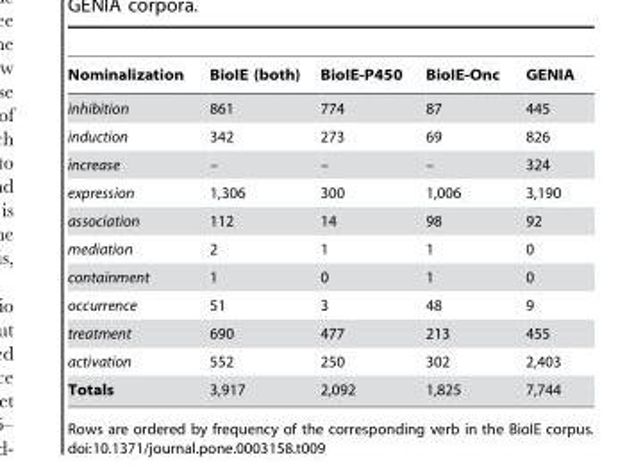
<table><thead><tr><td>Nominalization</td><td>BioIE (both)</td><td>BioIE-P450</td><td>BioIE-Onc</td><td>GENIA</td></tr></thead><tbody><tr><td>inhibition</td><td>861</td><td>774</td><td>87</td><td>445</td></tr><tr><td>induction</td><td>342</td><td>273</td><td>69</td><td>826</td></tr><tr><td>increase</td><td>–</td><td>–</td><td>–</td><td>324</td></tr><tr><td>expression</td><td>1,306</td><td>300</td><td>1,006</td><td>3,190</td></tr><tr><td>association</td><td>112</td><td>14</td><td>98</td><td>92</td></tr><tr><td>mediation</td><td>2</td><td>1</td><td>1</td><td>0</td></tr><tr><td>containment</td><td>1</td><td>0</td><td>1</td><td>0</td></tr><tr><td>occurrence</td><td>51</td><td>3</td><td>48</td><td>9</td></tr><tr><td>treatment</td><td>690</td><td>477</td><td>213</td><td>455</td></tr><tr><td>activation</td><td>552</td><td>250</td><td>302</td><td>2,403</td></tr><tr><td>Totals</td><td>3,917</td><td>2,092</td><td>1,825</td><td>7,744</td></tr></tbody></table>